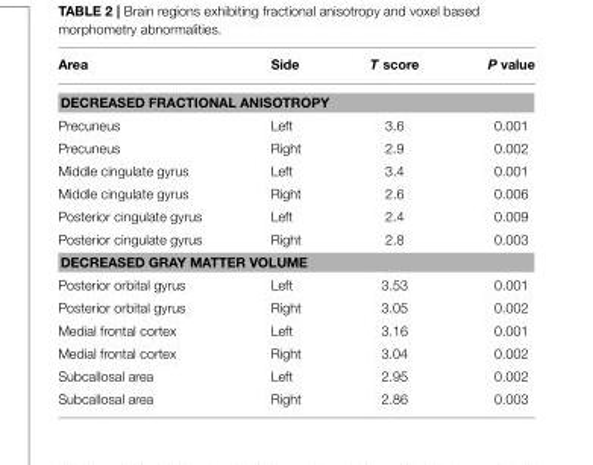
<table><thead><tr><td>Area</td><td>Side</td><td>T score</td><td>P value</td></tr></thead><tbody><tr><td colspan="4">DECREASED FRACTIONAL ANISOTROPY</td></tr><tr><td>Precuneus</td><td>Left</td><td>3.6</td><td>0.001</td></tr><tr><td>Precuneus</td><td>Right</td><td>2.9</td><td>0.002</td></tr><tr><td>Middle cingulate gyrus</td><td>Left</td><td>3.4</td><td>0.001</td></tr><tr><td>Middle cingulate gyrus</td><td>Right</td><td>2.6</td><td>0.006</td></tr><tr><td>Posterior cingulate gyrus</td><td>Left</td><td>2.4</td><td>0.009</td></tr><tr><td>Posterior cingulate gyrus</td><td>Right</td><td>2.8</td><td>0.003</td></tr><tr><td colspan="4">DECREASED GRAY MATTER VOLUME</td></tr><tr><td>Posterior orbital gyrus</td><td>Left</td><td>3.53</td><td>0.001</td></tr><tr><td>Posterior orbital gyrus</td><td>Right</td><td>3.05</td><td>0.002</td></tr><tr><td>Medial frontal cortex</td><td>Left</td><td>3.16</td><td>0.001</td></tr><tr><td>Medial frontal cortex</td><td>Right</td><td>3.04</td><td>0.002</td></tr><tr><td>Subcallosal area</td><td>Left</td><td>2.95</td><td>0.002</td></tr><tr><td>Subcallosal area</td><td>Right</td><td>2.86</td><td>0.003</td></tr></tbody></table>